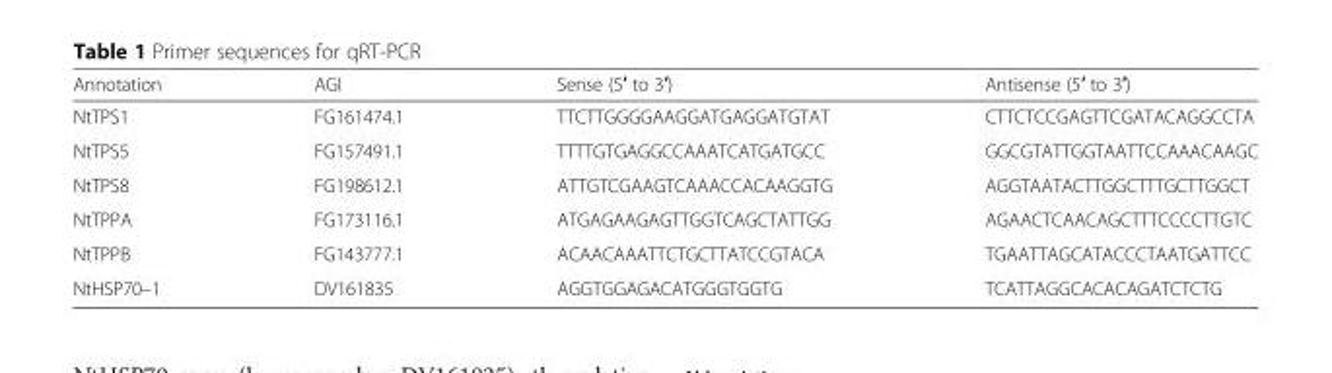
<table><thead><tr><td>Annotation</td><td>AGI</td><td>Sense (5′ to 3′)</td><td>Antisense (5′ to 3′)</td></tr></thead><tbody><tr><td>NtTPS1</td><td>FG161474.1</td><td>TTCTTGGGGAAGGATGAGGATGTAT</td><td>CTTCTCCGAGTTCGATACAGGCCTA</td></tr><tr><td>NtTPS5</td><td>FG157491.1</td><td>TTTTGTGAGGCCAAATCATGATGCC</td><td>GGCGTATTGGTAATTCCAAACAAGC</td></tr><tr><td>NtTPS8</td><td>FG198612.1</td><td>ATTGTCGAAGTCAAACCACAAGGTG</td><td>AGGTAATACTTGGCTTTGCTTGGCT</td></tr><tr><td>NtTPPA</td><td>FG173116.1</td><td>ATGAGAAGAGTTGGTCAGCTATTGG</td><td>AGAACTCAACAGCTTTCCCCTTGTC</td></tr><tr><td>NtTPPB</td><td>FG143777.1</td><td>ACAACAAATTCTGCTTATCCGTACA</td><td>TGAATTAGCATACCCTAATGATTCC</td></tr><tr><td>NtHSP70–1</td><td>DV161835</td><td>AGGTGGAGACATGGGTGGTG</td><td>TCATTAGGCACACAGATCTCTG</td></tr></tbody></table>